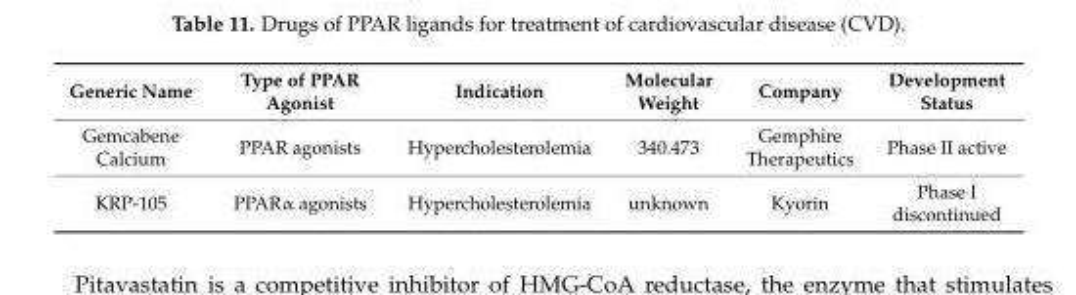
<table><thead><tr><td>Generic Name</td><td>Type of PPAR Agonist</td><td>Indication</td><td>Molecular Weight</td><td>Company</td><td>Development Status</td></tr></thead><tbody><tr><td>Gemcabene Calcium</td><td>PPAR agonists</td><td>Hypercholesterolemia</td><td>340.473</td><td>Gemphire Therapeutics</td><td>Phase II active</td></tr><tr><td>KRP-105</td><td>PPARα agonists</td><td>Hypercholesterolemia</td><td>unknown</td><td>Kyorin</td><td>Phase I discontinued</td></tr></tbody></table>